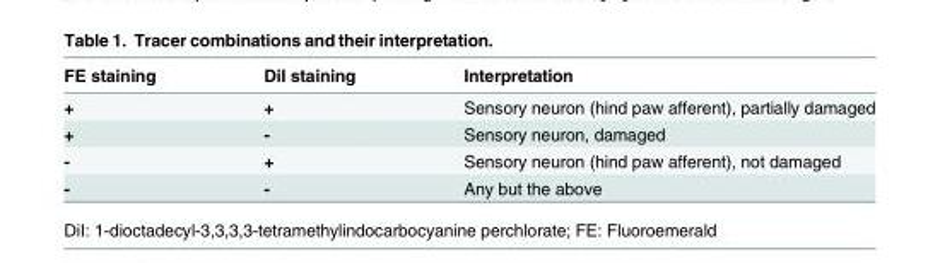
<table><thead><tr><td>FE staining</td><td>DiI staining</td><td>Interpretation</td></tr></thead><tbody><tr><td>+</td><td>+</td><td>Sensory neuron (hind paw afferent), partially damaged</td></tr><tr><td>+</td><td>-</td><td>Sensory neuron, damaged</td></tr><tr><td>-</td><td>+</td><td>Sensory neuron (hind paw afferent), not damaged</td></tr><tr><td>-</td><td>-</td><td>Any but the above</td></tr></tbody></table>